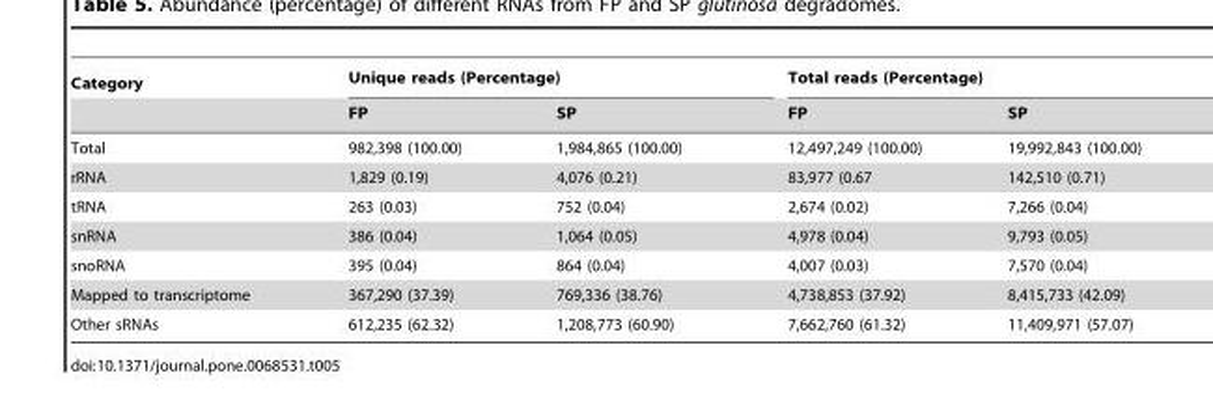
<table><thead><tr><td rowspan="2">Category</td><td colspan="2">Unique reads (Percentage)</td><td colspan="2">Total reads (Percentage)</td></tr><tr><td>FP</td><td>SP</td><td>FP</td><td>SP</td></tr></thead><tbody><tr><td>Total</td><td>982,398 (100.00)</td><td>1,984,865 (100.00)</td><td>12,497,249 (100.00)</td><td>19,992,843 (100.00)</td></tr><tr><td>rRNA</td><td>1,829 (0.19)</td><td>4,076 (0.21)</td><td>83,977 (0.67</td><td>142,510 (0.71)</td></tr><tr><td>tRNA</td><td>263 (0.03)</td><td>752 (0.04)</td><td>2,674 (0.02)</td><td>7,266 (0.04)</td></tr><tr><td>snRNA</td><td>386 (0.04)</td><td>1,064 (0.05)</td><td>4,978 (0.04)</td><td>9,793 (0.05)</td></tr><tr><td>snoRNA</td><td>395 (0.04)</td><td>864 (0.04)</td><td>4,007 (0.03)</td><td>7,570 (0.04)</td></tr><tr><td>Mapped to transcriptome</td><td>367,290 (37.39)</td><td>769,336 (38.76)</td><td>4,738,853 (37.92)</td><td>8,415,733 (42.09)</td></tr><tr><td>Other sRNAs</td><td>612,235 (62.32)</td><td>1,208,773 (60.90)</td><td>7,662,760 (61.32)</td><td>11,409,971 (57.07)</td></tr></tbody></table>